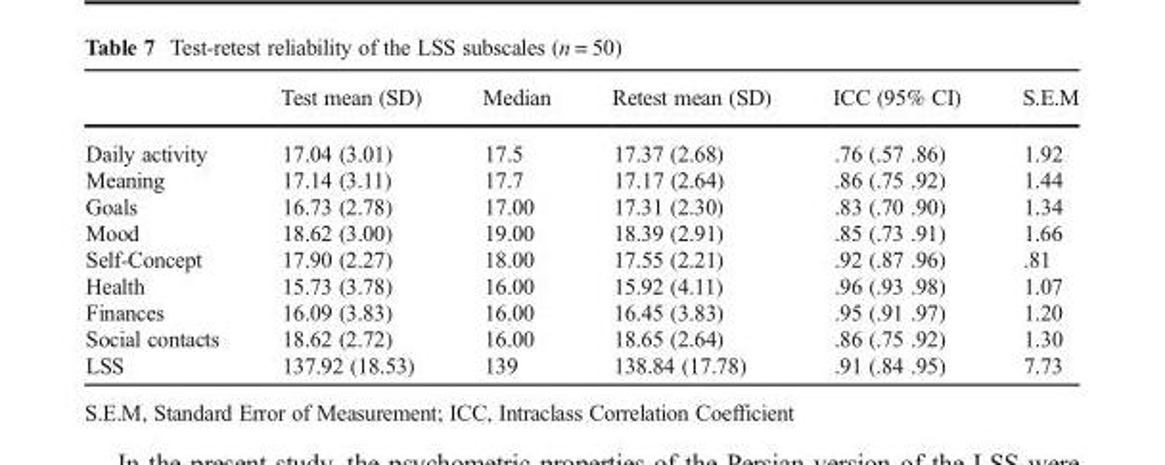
<table><thead><tr><td></td><td>Test mean (SD)</td><td>Median</td><td>Retest mean (SD)</td><td>ICC (95% CI)</td><td>S.E.M</td></tr></thead><tbody><tr><td>Daily activity</td><td>17.04 (3.01)</td><td>17.5</td><td>17.37 (2.68)</td><td>.76 (.57 .86)</td><td>1.92</td></tr><tr><td>Meaning</td><td>17.14 (3.11)</td><td>17.7</td><td>17.17 (2.64)</td><td>.86 (.75 .92)</td><td>1.44</td></tr><tr><td>Goals</td><td>16.73 (2.78)</td><td>17.00</td><td>17.31 (2.30)</td><td>.83 (.70 .90)</td><td>1.34</td></tr><tr><td>Mood</td><td>18.62 (3.00)</td><td>19.00</td><td>18.39 (2.91)</td><td>.85 (.73 .91)</td><td>1.66</td></tr><tr><td>Self-Concept</td><td>17.90 (2.27)</td><td>18.00</td><td>17.55 (2.21)</td><td>.92 (.87 .96)</td><td>.81</td></tr><tr><td>Health</td><td>15.73 (3.78)</td><td>16.00</td><td>15.92 (4.11)</td><td>.96 (.93 .98)</td><td>1.07</td></tr><tr><td>Finances</td><td>16.09 (3.83)</td><td>16.00</td><td>16.45 (3.83)</td><td>.95 (.91 .97)</td><td>1.20</td></tr><tr><td>Social contacts</td><td>18.62 (2.72)</td><td>16.00</td><td>18.65 (2.64)</td><td>.86 (.75 .92)</td><td>1.30</td></tr><tr><td>LSS</td><td>137.92 (18.53)</td><td>139</td><td>138.84 (17.78)</td><td>.91 (.84 .95)</td><td>7.73</td></tr></tbody></table>